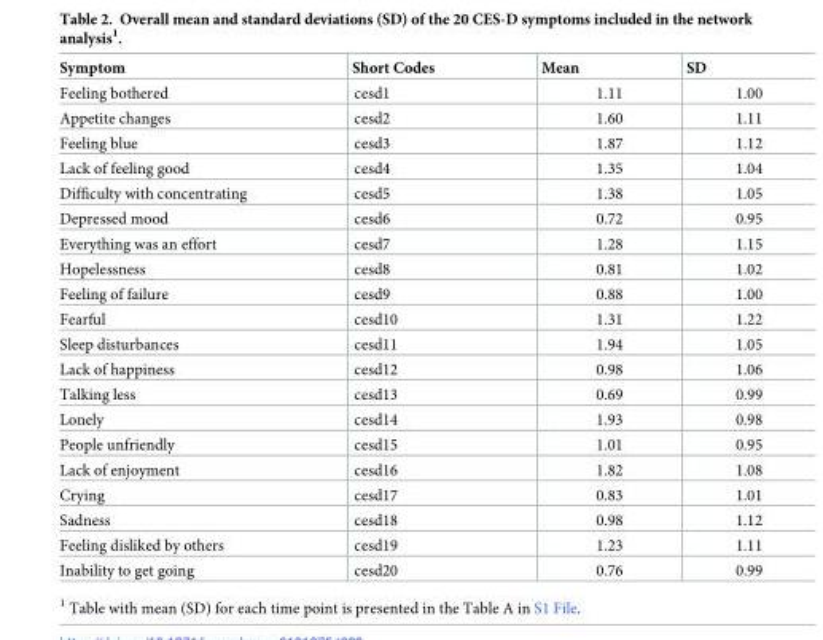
<table><thead><tr><td>Symptom</td><td>Short Codes</td><td>Mean</td><td>SD</td></tr></thead><tbody><tr><td>Feeling bothered</td><td>cesd1</td><td>1.11</td><td>1.00</td></tr><tr><td>Appetite changes</td><td>cesd2</td><td>1.60</td><td>1.11</td></tr><tr><td>Feeling blue</td><td>cesd3</td><td>1.87</td><td>1.12</td></tr><tr><td>Lack of feeling good</td><td>cesd4</td><td>1.35</td><td>1.04</td></tr><tr><td>Difficulty with concentrating</td><td>cesd5</td><td>1.38</td><td>1.05</td></tr><tr><td>Depressed mood</td><td>cesd6</td><td>0.72</td><td>0.95</td></tr><tr><td>Everything was an effort</td><td>cesd7</td><td>1.28</td><td>1.15</td></tr><tr><td>Hopelessness</td><td>cesd8</td><td>0.81</td><td>1.02</td></tr><tr><td>Feeling of failure</td><td>cesd9</td><td>0.88</td><td>1.00</td></tr><tr><td>Fearful</td><td>cesd10</td><td>1.31</td><td>1.22</td></tr><tr><td>Sleep disturbances</td><td>cesd11</td><td>1.94</td><td>1.05</td></tr><tr><td>Lack of happiness</td><td>cesd12</td><td>0.98</td><td>1.06</td></tr><tr><td>Talking less</td><td>cesd13</td><td>0.69</td><td>0.99</td></tr><tr><td>Lonely</td><td>cesd14</td><td>1.93</td><td>0.98</td></tr><tr><td>People unfriendly</td><td>cesd15</td><td>1.01</td><td>0.95</td></tr><tr><td>Lack of enjoyment</td><td>cesd16</td><td>1.82</td><td>1.08</td></tr><tr><td>Crying</td><td>cesd17</td><td>0.83</td><td>1.01</td></tr><tr><td>Sadness</td><td>cesd18</td><td>0.98</td><td>1.12</td></tr><tr><td>Feeling disliked by others</td><td>cesd19</td><td>1.23</td><td>1.11</td></tr><tr><td>Inability to get going</td><td>cesd20</td><td>0.76</td><td>0.99</td></tr></tbody></table>